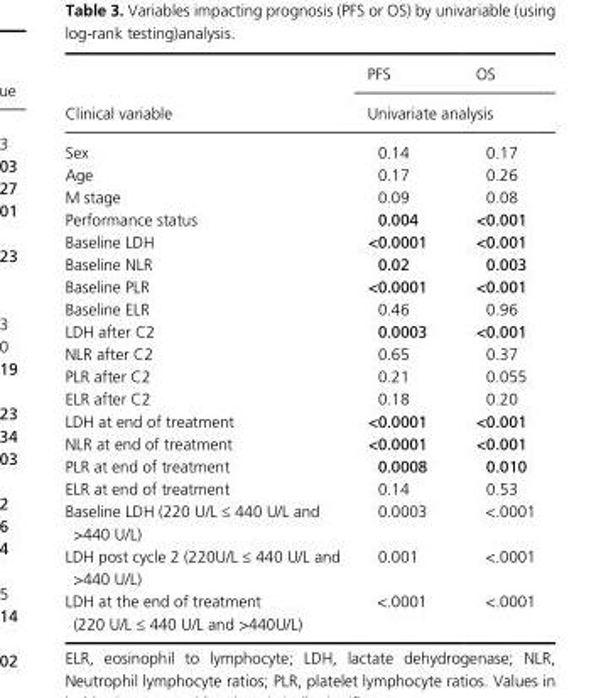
<table><thead><tr><td rowspan="2">Clinical variable</td><td>PFS</td><td>OS</td></tr><tr><td colspan="2">Univariate analysis</td></tr></thead><tbody><tr><td>Sex</td><td>0.14</td><td>0.17</td></tr><tr><td>Age</td><td>0.17</td><td>0.26</td></tr><tr><td>M stage</td><td>0.09</td><td>0.08</td></tr><tr><td>Performance status</td><td>0.004</td><td>&lt;0.001</td></tr><tr><td>Baseline LDH</td><td>&lt;0.0001</td><td>&lt;0.001</td></tr><tr><td>Baseline NLR</td><td>0.02</td><td>0.003</td></tr><tr><td>Baseline PLR</td><td>&lt;0.0001</td><td>&lt;0.001</td></tr><tr><td>Baseline ELR</td><td>0.46</td><td>0.96</td></tr><tr><td>LDH after C2</td><td>0.0003</td><td>&lt;0.001</td></tr><tr><td>NLR after C2</td><td>0.65</td><td>0.37</td></tr><tr><td>PLR after C2</td><td>0.21</td><td>0.055</td></tr><tr><td>ELR after C2</td><td>0.18</td><td>0.20</td></tr><tr><td>LDH at end of treatment</td><td>&lt;0.0001</td><td>&lt;0.001</td></tr><tr><td>NLR at end of treatment</td><td>&lt;0.0001</td><td>&lt;0.001</td></tr><tr><td>PLR at end of treatment</td><td>0.0008</td><td>0.010</td></tr><tr><td>ELR at end of treatment</td><td>0.14</td><td>0.53</td></tr><tr><td>Baseline LDH (220 U/L ≤ 440 U/L and &gt;440 U/L)</td><td>0.0003</td><td>&lt;.0001</td></tr><tr><td>LDH post cycle 2 (220U/L ≤ 440 U/L and &gt;440 U/L)</td><td>0.001</td><td>&lt;.0001</td></tr><tr><td>LDH at the end of treatment (220 U/L ≤ 440 U/L and &gt;440U/L)</td><td>&lt;.0001</td><td>&lt;.0001</td></tr></tbody></table>